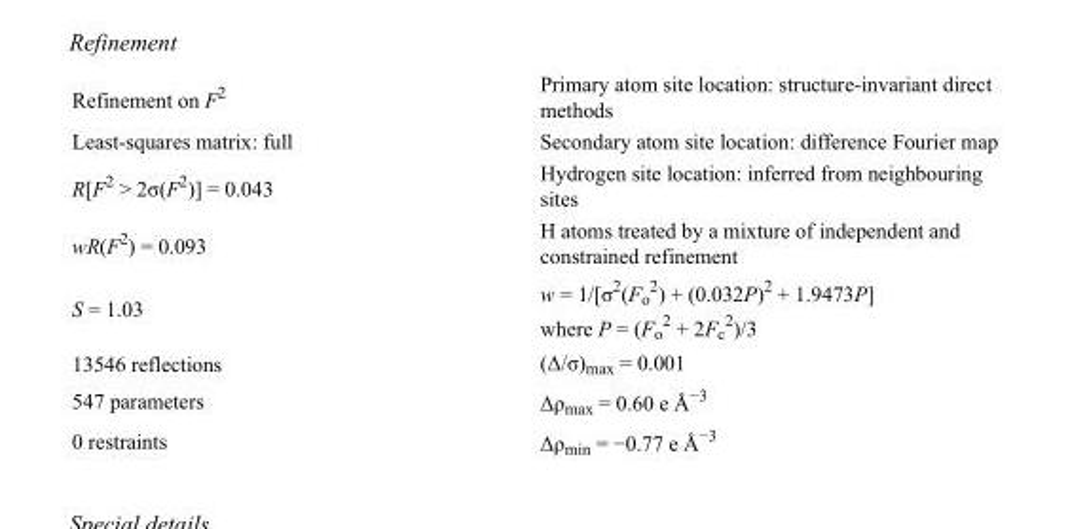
<table><tbody><tr><td>Refinement on F<sup>2</sup></td><td>Primary atom site location: structure-invariant direct methods</td></tr><tr><td>Least-squares matrix: full</td><td>Secondary atom site location: difference Fourier map</td></tr><tr><td>R[F<sup>2</sup> &gt; 2σ(F<sup>2</sup>)] = 0.043</td><td>Hydrogen site location: inferred from neighbouring sites</td></tr><tr><td>wR(F<sup>2</sup>) = 0.093</td><td>H atoms treated by a mixture of independent and constrained refinement</td></tr><tr><td>S = 1.03</td><td>w = 1/[σ<sup>2</sup>(F<sub>o</sub> <sup>2</sup>) + (0.032P)<sup>2</sup> + 1.9473P] where P = (F<sub>o</sub> <sup>2</sup> + 2F<sub>c</sub> <sup>2</sup>)/3</td></tr><tr><td>13546 reflections</td><td>(Δ/σ)<sub>max</sub> = 0.001</td></tr><tr><td>547 parameters</td><td>Δρ<sub>max</sub> = 0.60 e Å<sup>−3</sup></td></tr><tr><td>0 restraints</td><td>Δρ<sub>min</sub> = −0.77 e Å<sup>−3</sup></td></tr></tbody></table>